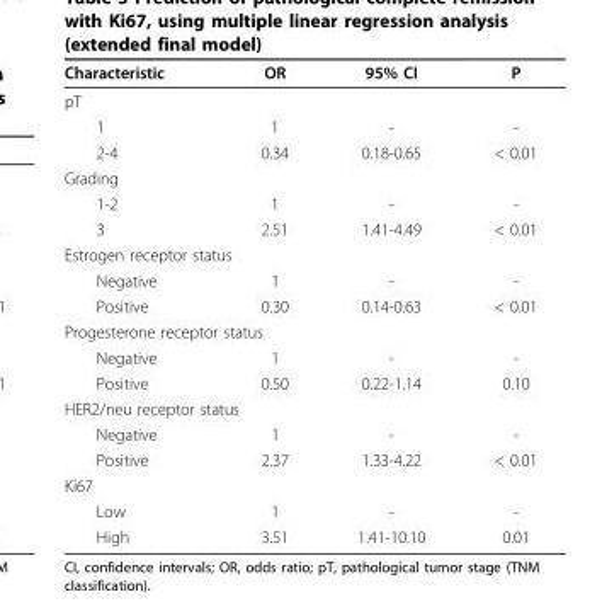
<table><thead><tr><td>Characteristic</td><td>OR</td><td>95% CI</td><td>P</td></tr></thead><tbody><tr><td colspan="4">pT</td></tr><tr><td>1</td><td>1</td><td>-</td><td>-</td></tr><tr><td>2-4</td><td>0.34</td><td>0.18-0.65</td><td>&lt; 0.01</td></tr><tr><td colspan="4">Grading</td></tr><tr><td>1-2</td><td>1</td><td>-</td><td>-</td></tr><tr><td>3</td><td>2.51</td><td>1.41-4.49</td><td>&lt; 0.01</td></tr><tr><td colspan="4">Estrogen receptor status</td></tr><tr><td>Negative</td><td>1</td><td>-</td><td>-</td></tr><tr><td>Positive</td><td>0.30</td><td>0.14-0.63</td><td>&lt; 0.01</td></tr><tr><td colspan="4">Progesterone receptor status</td></tr><tr><td>Negative</td><td>1</td><td>-</td><td>-</td></tr><tr><td>Positive</td><td>0.50</td><td>0.22-1.14</td><td>0.10</td></tr><tr><td colspan="4">HER2/neu receptor status</td></tr><tr><td>Negative</td><td>1</td><td>-</td><td>-</td></tr><tr><td>Positive</td><td>2.37</td><td>1.33-4.22</td><td>&lt; 0.01</td></tr><tr><td colspan="4">Ki67</td></tr><tr><td>Low</td><td>1</td><td>-</td><td>-</td></tr><tr><td>High</td><td>3.51</td><td>1.41-10.10</td><td>0.01</td></tr></tbody></table>